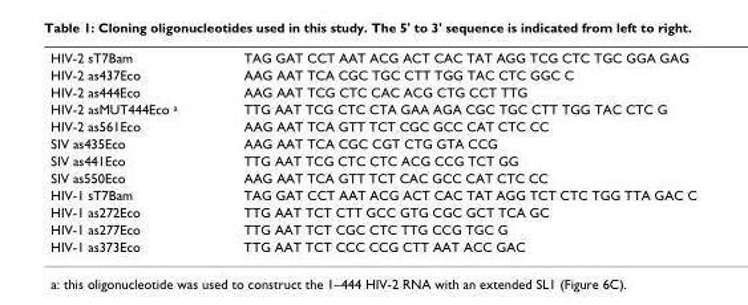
<table><tbody><tr><td>HIV-2 sT7Bam</td><td>TAG GAT CCT AAT ACG ACT CAC TAT AGG TCG CTC TGC GGA GAG</td></tr><tr><td>HIV-2 as437Eco</td><td>AAG AAT TCA CGC TGC CTT TGG TAC CTC GGC C</td></tr><tr><td>HIV-2 as444Eco</td><td>AAG AAT TCG CTC CAC ACG CTG CCT TTG</td></tr><tr><td>HIV-2 asMUT444Eco <sup>a</sup></td><td>TTG AAT TCG CTC CTA GAA AGA CGC TGC CTT TGG TAC CTC G</td></tr><tr><td>HIV-2 as561Eco</td><td>AAG AAT TCA GTT TCT CGC GCC CAT CTC CC</td></tr><tr><td>SIV as435Eco</td><td>AAG AAT TCA CGC CGT CTG GTA CCG</td></tr><tr><td>SIV as441Eco</td><td>TTG AAT TCG CTC CTC ACG CCG TCT GG</td></tr><tr><td>SIV as550Eco</td><td>AAG AAT TCA GTT TCT CAC GCC CAT CTC CC</td></tr><tr><td>HIV-1 sT7Bam</td><td>TAG GAT CCT AAT ACG ACT CAC TAT AGG TCT CTC TGG TTA GAC C</td></tr><tr><td>HIV-1 as272Eco</td><td>TTG AAT TCT CTT GCC GTG CGC GCT TCA GC</td></tr><tr><td>HIV-1 as277Eco</td><td>TTG AAT TCT CGC CTC TTG CCG TGC G</td></tr><tr><td>HIV-1 as373Eco</td><td>TTG AAT TCT CCC CCG CTT AAT ACC GAC</td></tr></tbody></table>